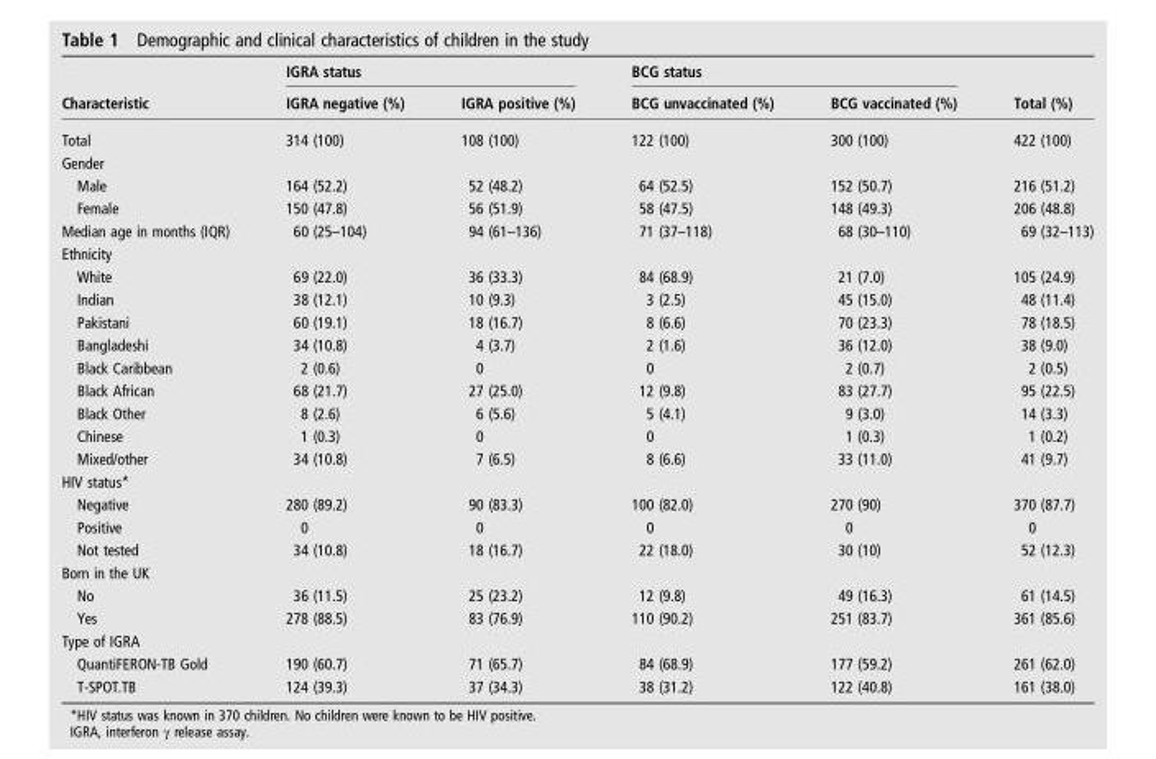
<table><thead><tr><td rowspan="2">Characteristic</td><td colspan="2">IGRA status</td><td colspan="2">BCG status</td><td rowspan="2">Total (%)</td></tr><tr><td>IGRA negative (%)</td><td>IGRA positive (%)</td><td>BCG unvaccinated (%)</td><td>BCG vaccinated (%)</td></tr></thead><tbody><tr><td>Total</td><td>314 (100)</td><td>108 (100)</td><td>122 (100)</td><td>300 (100)</td><td>422 (100)</td></tr><tr><td colspan="6">Gender</td></tr><tr><td>Male</td><td>164 (52.2)</td><td>52 (48.2)</td><td>64 (52.5)</td><td>152 (50.7)</td><td>216 (51.2)</td></tr><tr><td>Female</td><td>150 (47.8)</td><td>56 (51.9)</td><td>58 (47.5)</td><td>148 (49.3)</td><td>206 (48.8)</td></tr><tr><td>Median age in months (IQR)</td><td>60 (25–104)</td><td>94 (61–136)</td><td>71 (37–118)</td><td>68 (30–110)</td><td>69 (32–113)</td></tr><tr><td colspan="6">Ethnicity</td></tr><tr><td>White</td><td>69 (22.0)</td><td>36 (33.3)</td><td>84 (68.9)</td><td>21 (7.0)</td><td>105 (24.9)</td></tr><tr><td>Indian</td><td>38 (12.1)</td><td>10 (9.3)</td><td>3 (2.5)</td><td>45 (15.0)</td><td>48 (11.4)</td></tr><tr><td>Pakistani</td><td>60 (19.1)</td><td>18 (16.7)</td><td>8 (6.6)</td><td>70 (23.3)</td><td>78 (18.5)</td></tr><tr><td>Bangladeshi</td><td>34 (10.8)</td><td>4 (3.7)</td><td>2 (1.6)</td><td>36 (12.0)</td><td>38 (9.0)</td></tr><tr><td>Black Caribbean</td><td>2 (0.6)</td><td>0</td><td>0</td><td>2 (0.7)</td><td>2 (0.5)</td></tr><tr><td>Black African</td><td>68 (21.7)</td><td>27 (25.0)</td><td>12 (9.8)</td><td>83 (27.7)</td><td>95 (22.5)</td></tr><tr><td>Black Other</td><td>8 (2.6)</td><td>6 (5.6)</td><td>5 (4.1)</td><td>9 (3.0)</td><td>14 (3.3)</td></tr><tr><td>Chinese</td><td>1 (0.3)</td><td>0</td><td>0</td><td>1 (0.3)</td><td>1 (0.2)</td></tr><tr><td>Mixed/other</td><td>34 (10.8)</td><td>7 (6.5)</td><td>8 (6.6)</td><td>33 (11.0)</td><td>41 (9.7)</td></tr><tr><td colspan="6">HIV status*</td></tr><tr><td>Negative</td><td>280 (89.2)</td><td>90 (83.3)</td><td>100 (82.0)</td><td>270 (90)</td><td>370 (87.7)</td></tr><tr><td>Positive</td><td>0</td><td>0</td><td>0</td><td>0</td><td>0</td></tr><tr><td>Not tested</td><td>34 (10.8)</td><td>18 (16.7)</td><td>22 (18.0)</td><td>30 (10)</td><td>52 (12.3)</td></tr><tr><td colspan="6">Born in the UK</td></tr><tr><td>No</td><td>36 (11.5)</td><td>25 (23.2)</td><td>12 (9.8)</td><td>49 (16.3)</td><td>61 (14.5)</td></tr><tr><td>Yes</td><td>278 (88.5)</td><td>83 (76.9)</td><td>110 (90.2)</td><td>251 (83.7)</td><td>361 (85.6)</td></tr><tr><td colspan="6">Type of IGRA</td></tr><tr><td>QuantiFERON-TB Gold</td><td>190 (60.7)</td><td>71 (65.7)</td><td>84 (68.9)</td><td>177 (59.2)</td><td>261 (62.0)</td></tr><tr><td>T-SPOT.TB</td><td>124 (39.3)</td><td>37 (34.3)</td><td>38 (31.2)</td><td>122 (40.8)</td><td>161 (38.0)</td></tr></tbody></table>